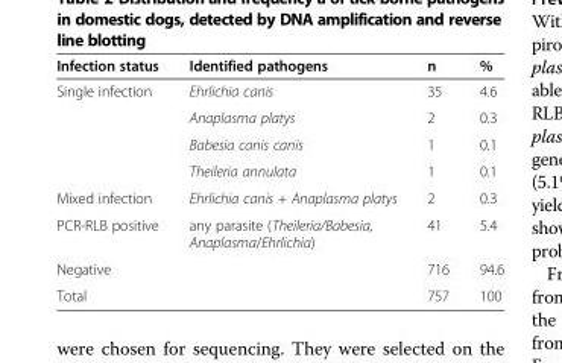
<table><thead><tr><td>Infection status</td><td>Identified pathogens</td><td>n</td><td>%</td></tr></thead><tbody><tr><td rowspan="4">Single infection</td><td>Ehrlichia canis</td><td>35</td><td>4.6</td></tr><tr><td>Anaplasma platys</td><td>2</td><td>0.3</td></tr><tr><td>Babesia canis canis</td><td>1</td><td>0.1</td></tr><tr><td>Theileria annulata</td><td>1</td><td>0.1</td></tr><tr><td>Mixed infection</td><td>Ehrlichia canis + Anaplasma platys</td><td>2</td><td>0.3</td></tr><tr><td>PCR-RLB positive</td><td>any parasite (Theileria/Babesia, Anaplasma/Ehrlichia)</td><td>41</td><td>5.4</td></tr><tr><td>Negative</td><td></td><td>716</td><td>94.6</td></tr><tr><td>Total</td><td></td><td>757</td><td>100</td></tr></tbody></table>